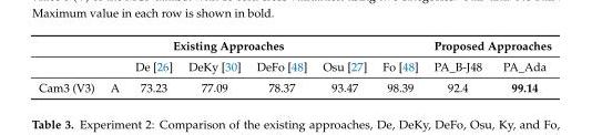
<table><thead><tr><td colspan="7">Existing Approaches</td><td colspan="2">Proposed Approaches</td></tr><tr><td colspan="2"></td><td rowspan="2">De [26] 73.23</td><td rowspan="2">DeKy [30] 77.09</td><td rowspan="2">DeFo [48] 78.37</td><td rowspan="2">Osu [27] 93.47</td><td rowspan="2">Fo [48] 98.39</td><td rowspan="2">PA_B-J48 92.4</td><td rowspan="2">PA_Ada 99.14</td></tr><tr><td>Cam3 (V3)</td><td>A</td></tr></thead><tbody></tbody></table>